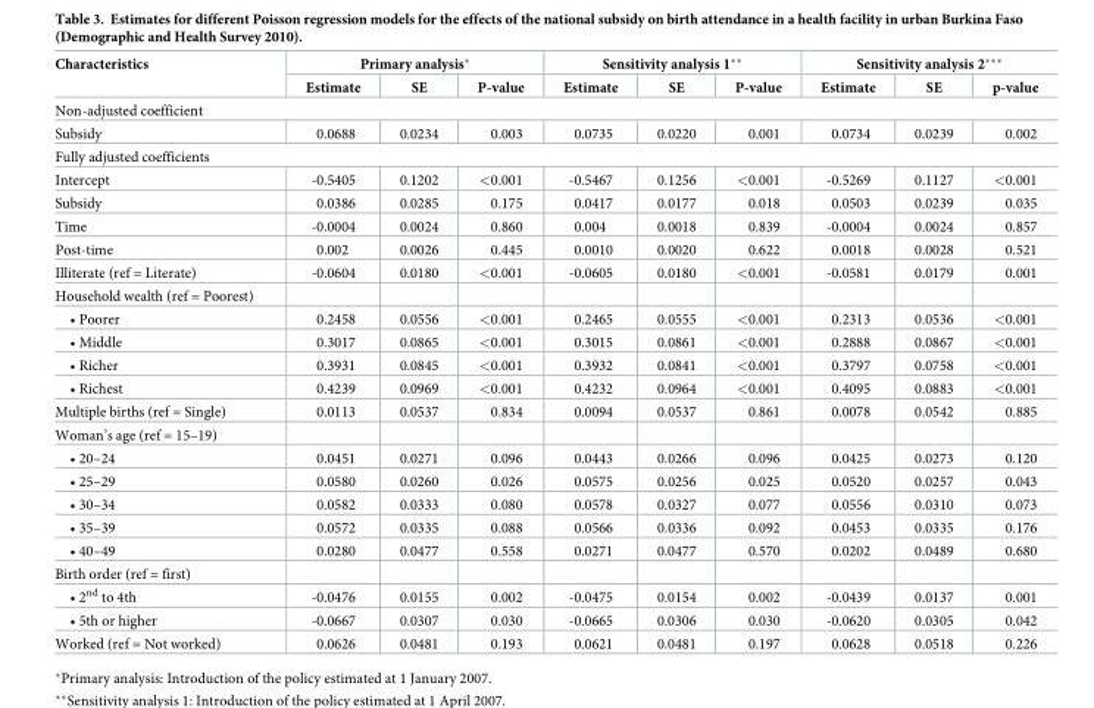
<table><thead><tr><td rowspan="2">Characteristics</td><td colspan="3">Primary analysis*</td><td colspan="3">Sensitivity analysis 1**</td><td colspan="3">Sensitivity analysis 2***</td></tr><tr><td>Estimate</td><td>SE</td><td>P-value</td><td>Estimate</td><td>SE</td><td>P-value</td><td>Estimate</td><td>SE</td><td>p-value</td></tr></thead><tbody><tr><td colspan="10">Non-adjusted coefficient</td></tr><tr><td>Subsidy</td><td>0.0688</td><td>0.0234</td><td>0.003</td><td>0.0735</td><td>0.0220</td><td>0.001</td><td>0.0734</td><td>0.0239</td><td>0.002</td></tr><tr><td colspan="10">Fully adjusted coefficients</td></tr><tr><td>Intercept</td><td>-0.5405</td><td>0.1202</td><td>&lt;0.001</td><td>-0.5467</td><td>0.1256</td><td>&lt;0.001</td><td>-0.5269</td><td>0.1127</td><td>&lt;0.001</td></tr><tr><td>Subsidy</td><td>0.0386</td><td>0.0285</td><td>0.175</td><td>0.0417</td><td>0.0177</td><td>0.018</td><td>0.0503</td><td>0.0239</td><td>0.035</td></tr><tr><td>Time</td><td>-0.0004</td><td>0.0024</td><td>0.860</td><td>0.004</td><td>0.0018</td><td>0.839</td><td>-0.0004</td><td>0.0024</td><td>0.857</td></tr><tr><td>Post-time</td><td>0.002</td><td>0.0026</td><td>0.445</td><td>0.0010</td><td>0.0020</td><td>0.622</td><td>0.0018</td><td>0.0028</td><td>0.521</td></tr><tr><td>Illiterate (ref = Literate)</td><td>-0.0604</td><td>0.0180</td><td>&lt;0.001</td><td>-0.0605</td><td>0.0180</td><td>&lt;0.001</td><td>-0.0581</td><td>0.0179</td><td>0.001</td></tr><tr><td colspan="10">Household wealth (ref = Poorest)</td></tr><tr><td>• Poorer</td><td>0.2458</td><td>0.0556</td><td>&lt;0.001</td><td>0.2465</td><td>0.0555</td><td>&lt;0.001</td><td>0.2313</td><td>0.0536</td><td>&lt;0.001</td></tr><tr><td>• Middle</td><td>0.3017</td><td>0.0865</td><td>&lt;0.001</td><td>0.3015</td><td>0.0861</td><td>&lt;0.001</td><td>0.2888</td><td>0.0867</td><td>&lt;0.001</td></tr><tr><td>• Richer</td><td>0.3931</td><td>0.0845</td><td>&lt;0.001</td><td>0.3932</td><td>0.0841</td><td>&lt;0.001</td><td>0.3797</td><td>0.0758</td><td>&lt;0.001</td></tr><tr><td>• Richest</td><td>0.4239</td><td>0.0969</td><td>&lt;0.001</td><td>0.4232</td><td>0.0964</td><td>&lt;0.001</td><td>0.4095</td><td>0.0883</td><td>&lt;0.001</td></tr><tr><td>Multiple births (ref = Single)</td><td>0.0113</td><td>0.0537</td><td>0.834</td><td>0.0094</td><td>0.0537</td><td>0.861</td><td>0.0078</td><td>0.0542</td><td>0.885</td></tr><tr><td colspan="10">Woman’s age (ref = 15–19)</td></tr><tr><td>• 20–24</td><td>0.0451</td><td>0.0271</td><td>0.096</td><td>0.0443</td><td>0.0266</td><td>0.096</td><td>0.0425</td><td>0.0273</td><td>0.120</td></tr><tr><td>• 25–29</td><td>0.0580</td><td>0.0260</td><td>0.026</td><td>0.0575</td><td>0.0256</td><td>0.025</td><td>0.0520</td><td>0.0257</td><td>0.043</td></tr><tr><td>• 30–34</td><td>0.0582</td><td>0.0333</td><td>0.080</td><td>0.0578</td><td>0.0327</td><td>0.077</td><td>0.0556</td><td>0.0310</td><td>0.073</td></tr><tr><td>• 35–39</td><td>0.0572</td><td>0.0335</td><td>0.088</td><td>0.0566</td><td>0.0336</td><td>0.092</td><td>0.0453</td><td>0.0335</td><td>0.176</td></tr><tr><td>• 40–49</td><td>0.0280</td><td>0.0477</td><td>0.558</td><td>0.0271</td><td>0.0477</td><td>0.570</td><td>0.0202</td><td>0.0489</td><td>0.680</td></tr><tr><td colspan="10">Birth order (ref = first)</td></tr><tr><td>• 2<sup>nd</sup> to 4th</td><td>-0.0476</td><td>0.0155</td><td>0.002</td><td>-0.0475</td><td>0.0154</td><td>0.002</td><td>-0.0439</td><td>0.0137</td><td>0.001</td></tr><tr><td>• 5th or higher</td><td>-0.0667</td><td>0.0307</td><td>0.030</td><td>-0.0665</td><td>0.0306</td><td>0.030</td><td>-0.0620</td><td>0.0305</td><td>0.042</td></tr><tr><td>Worked (ref = Not worked)</td><td>0.0626</td><td>0.0481</td><td>0.193</td><td>0.0621</td><td>0.0481</td><td>0.197</td><td>0.0628</td><td>0.0518</td><td>0.226</td></tr></tbody></table>